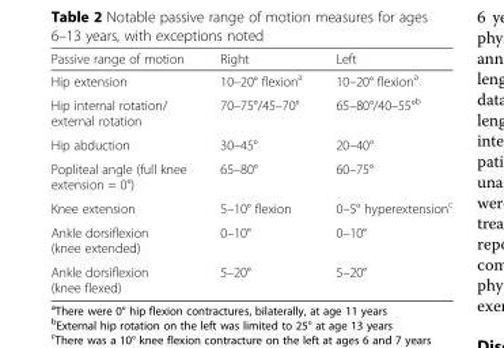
<table><thead><tr><td>Passive range of motion</td><td>Right</td><td>Left</td></tr></thead><tbody><tr><td>Hip extension</td><td>10–20° flexion<sup>a</sup></td><td>10–20° flexion<sup>a</sup></td></tr><tr><td>Hip internal rotation/ external rotation</td><td>70–75°/45–70°</td><td>65–80°/40–55°<sup>b</sup></td></tr><tr><td>Hip abduction</td><td>30–45°</td><td>20–40°</td></tr><tr><td>Popliteal angle (full knee extension = 0°)</td><td>65–80°</td><td>60–75°</td></tr><tr><td>Knee extension</td><td>5–10° flexion</td><td>0–5° hyperextension<sup>c</sup></td></tr><tr><td>Ankle dorsiflexion (knee extended)</td><td>0–10°</td><td>0–10°</td></tr><tr><td>Ankle dorsiflexion (knee flexed)</td><td>5–20°</td><td>5–20°</td></tr></tbody></table>